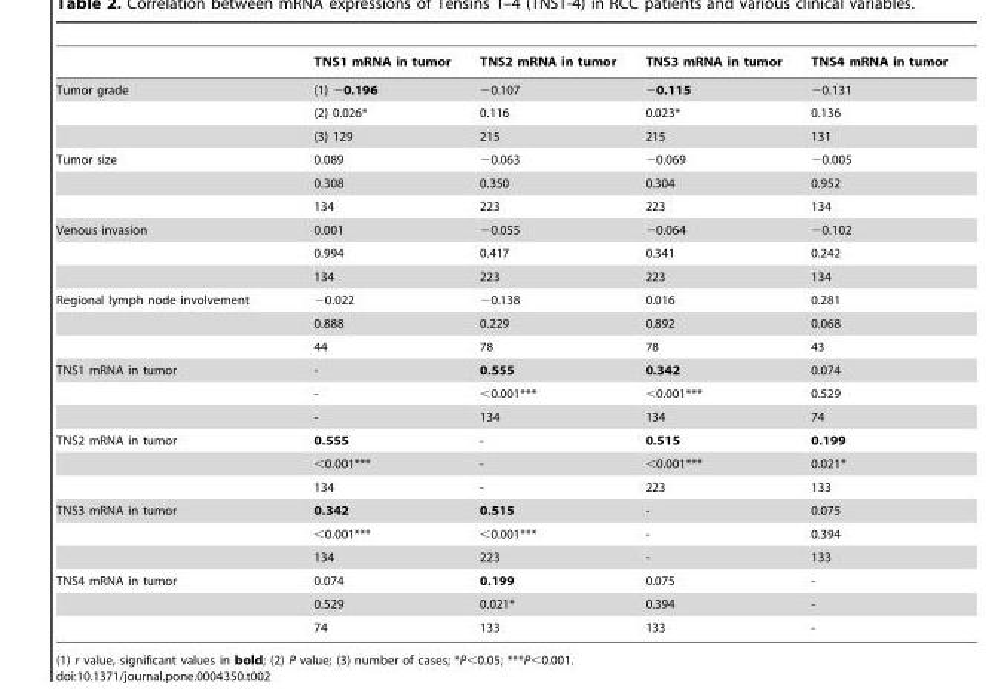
<table><thead><tr><td></td><td>TNS1 mRNA in tumor</td><td>TNS2 mRNA in tumor</td><td>TNS3 mRNA in tumor</td><td>TNS4 mRNA in tumor</td></tr></thead><tbody><tr><td rowspan="3">Tumor grade</td><td>(1) −0.196</td><td>−0.107</td><td>−0.115</td><td>−0.131</td></tr><tr><td>(2) 0.026*</td><td>0.116</td><td>0.023*</td><td>0.136</td></tr><tr><td>(3) 129</td><td>215</td><td>215</td><td>131</td></tr><tr><td rowspan="3">Tumor size</td><td>0.089</td><td>−0.063</td><td>−0.069</td><td>−0.005</td></tr><tr><td>0.308</td><td>0.350</td><td>0.304</td><td>0.952</td></tr><tr><td>134</td><td>223</td><td>223</td><td>134</td></tr><tr><td rowspan="3">Venous invasion</td><td>0.001</td><td>−0.055</td><td>−0.064</td><td>−0.102</td></tr><tr><td>0.994</td><td>0.417</td><td>0.341</td><td>0.242</td></tr><tr><td>134</td><td>223</td><td>223</td><td>134</td></tr><tr><td rowspan="3">Regional lymph node involvement</td><td>−0.022</td><td>−0.138</td><td>0.016</td><td>0.281</td></tr><tr><td>0.888</td><td>0.229</td><td>0.892</td><td>0.068</td></tr><tr><td>44</td><td>78</td><td>78</td><td>43</td></tr><tr><td rowspan="3">TNS1 mRNA in tumor</td><td>-</td><td>0.555</td><td>0.342</td><td>0.074</td></tr><tr><td>-</td><td>&lt;0.001***</td><td>&lt;0.001***</td><td>0.529</td></tr><tr><td>-</td><td>134</td><td>134</td><td>74</td></tr><tr><td rowspan="3">TNS2 mRNA in tumor</td><td>0.555</td><td>-</td><td>0.515</td><td>0.199</td></tr><tr><td>&lt;0.001***</td><td>-</td><td>&lt;0.001***</td><td>0.021*</td></tr><tr><td>134</td><td>-</td><td>223</td><td>133</td></tr><tr><td rowspan="3">TNS3 mRNA in tumor</td><td>0.342</td><td>0.515</td><td>-</td><td>0.075</td></tr><tr><td>&lt;0.001***</td><td>&lt;0.001***</td><td>-</td><td>0.394</td></tr><tr><td>134</td><td>223</td><td>-</td><td>133</td></tr><tr><td rowspan="3">TNS4 mRNA in tumor</td><td>0.074</td><td>0.199</td><td>0.075</td><td>-</td></tr><tr><td>0.529</td><td>0.021*</td><td>0.394</td><td>-</td></tr><tr><td>74</td><td>133</td><td>133</td><td>-</td></tr></tbody></table>